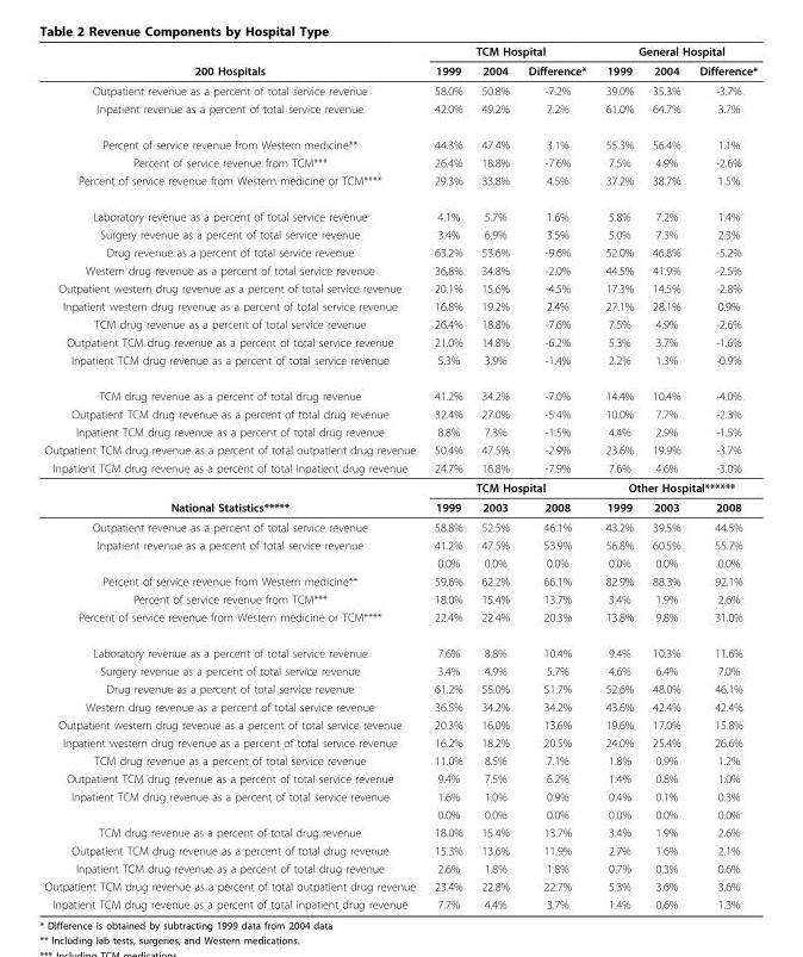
<table><thead><tr><td rowspan="2">200 Hospitals</td><td colspan="3">TCM Hospital</td><td colspan="3">General Hospital</td></tr><tr><td>1999</td><td>2004</td><td>Difference*</td><td>1999</td><td>2004</td><td>Difference*</td></tr></thead><tbody><tr><td>Outpatient revenue as a percent of total service revenue</td><td>58.0%</td><td>50.8%</td><td>-7.2%</td><td>39.0%</td><td>35.3%</td><td>-3.7%</td></tr><tr><td>Inpatient revenue as a percent of total service revenue</td><td>42.0%</td><td>49.2%</td><td>7.2%</td><td>61.0%</td><td>64.7%</td><td>3.7%</td></tr><tr><td>Percent of service revenue from Western medicine**</td><td>44.3%</td><td>47.4%</td><td>3.1%</td><td>55.3%</td><td>56.4%</td><td>1.1%</td></tr><tr><td>Percent of service revenue from TCM***</td><td>26.4%</td><td>18.8%</td><td>-7.6%</td><td>7.5%</td><td>4.9%</td><td>-2.6%</td></tr><tr><td>Percent of service revenue from Western medicine or TCM****</td><td>29.3%</td><td>33.8%</td><td>4.5%</td><td>37.2%</td><td>38.7%</td><td>1.5%</td></tr><tr><td>Laboratory revenue as a percent of total service revenue</td><td>4.1%</td><td>5.7%</td><td>1.6%</td><td>5.8%</td><td>7.2%</td><td>1.4%</td></tr><tr><td>Surgery revenue as a percent of total service revenue</td><td>3.4%</td><td>6.9%</td><td>3.5%</td><td>5.0%</td><td>7.3%</td><td>2.3%</td></tr><tr><td>Drug revenue as a percent of total service revenue</td><td>63.2%</td><td>53.6%</td><td>-9.6%</td><td>52.0%</td><td>46.8%</td><td>-5.2%</td></tr><tr><td>Western drug revenue as a percent of total service revenue</td><td>36.8%</td><td>34.8%</td><td>-2.0%</td><td>44.5%</td><td>41.9%</td><td>-2.5%</td></tr><tr><td>Outpatient western drug revenue as a percent of total service revenue</td><td>20.1%</td><td>15.6%</td><td>-4.5%</td><td>17.3%</td><td>14.5%</td><td>-2.8%</td></tr><tr><td>Inpatient western drug revenue as a percent of total service revenue</td><td>16.8%</td><td>19.2%</td><td>2.4%</td><td>27.1%</td><td>28.1%</td><td>0.9%</td></tr><tr><td>TCM drug revenue as a percent of total service revenue</td><td>26.4%</td><td>18.8%</td><td>-7.6%</td><td>7.5%</td><td>4.9%</td><td>-2.6%</td></tr><tr><td>Outpatient TCM drug revenue as a percent of total service revenue</td><td>21.0%</td><td>14.8%</td><td>-6.2%</td><td>5.3%</td><td>3.7%</td><td>-1.6%</td></tr><tr><td>Inpatient TCM drug revenue as a percent of total service revenue</td><td>5.3%</td><td>3.9%</td><td>-1.4%</td><td>2.2%</td><td>1.3%</td><td>-0.9%</td></tr><tr><td>TCM drug revenue as a percent of total drug revenue</td><td>41.2%</td><td>34.2%</td><td>-7.0%</td><td>14.4%</td><td>10.4%</td><td>-4.0%</td></tr><tr><td>Outpatient TCM drug revenue as a percent of total drug revenue</td><td>32.4%</td><td>27.0%</td><td>-5.4%</td><td>10.0%</td><td>7.7%</td><td>-2.3%</td></tr><tr><td>Inpatient TCM drug revenue as a percent of total drug revenue</td><td>8.8%</td><td>7.3%</td><td>-1.5%</td><td>4.4%</td><td>2.9%</td><td>-1.5%</td></tr><tr><td>Outpatient TCM drug revenue as a percent of total outpatient drug revenue</td><td>50.4%</td><td>47.5%</td><td>-2.9%</td><td>23.6%</td><td>19.9%</td><td>-3.7%</td></tr><tr><td rowspan="2">Inpatient TCM drug revenue as a percent of total inpatient drug revenue</td><td>24.7%</td><td>16.8%</td><td>-7.9%</td><td>7.6%</td><td>4.6%</td><td>-3.0%</td></tr><tr><td colspan="3">TCM Hospital</td><td colspan="3">Other Hospital******</td></tr><tr><td>National Statistics*****</td><td>1999</td><td>2003</td><td>2008</td><td>1999</td><td>2003</td><td>2008</td></tr><tr><td>Outpatient revenue as a percent of total service revenue</td><td>58.8%</td><td>52.5%</td><td>46.1%</td><td>43.2%</td><td>39.5%</td><td>44.5%</td></tr><tr><td rowspan="2">Inpatient revenue as a percent of total service revenue</td><td>41.2%</td><td>47.5%</td><td>53.9%</td><td>56.8%</td><td>60.5%</td><td>55.7%</td></tr><tr><td>0.0%</td><td>0.0%</td><td>0.0%</td><td>0.0%</td><td>0.0%</td><td>0.0%</td></tr><tr><td>Percent of service revenue from Western medicine**</td><td>59.6%</td><td>62.2%</td><td>66.1%</td><td>82.9%</td><td>88.3%</td><td>92.1%</td></tr><tr><td>Percent of service revenue from TCM***</td><td>18.0%</td><td>15.4%</td><td>13.7%</td><td>3.4%</td><td>1.9%</td><td>2.6%</td></tr><tr><td>Percent of service revenue from Western medicine or TCM****</td><td>22.4%</td><td>22.4%</td><td>20.3%</td><td>13.8%</td><td>9.8%</td><td>31.0%</td></tr><tr><td>Laboratory revenue as a percent of total service revenue</td><td>7.6%</td><td>8.8%</td><td>10.4%</td><td>9.4%</td><td>10.3%</td><td>11.6%</td></tr><tr><td>Surgery revenue as a percent of total service revenue</td><td>3.4%</td><td>4.9%</td><td>5.7%</td><td>4.6%</td><td>6.4%</td><td>7.0%</td></tr><tr><td>Drug revenue as a percent of total service revenue</td><td>61.2%</td><td>55.0%</td><td>51.7%</td><td>52.6%</td><td>48.0%</td><td>46.1%</td></tr><tr><td>Western drug revenue as a percent of total service revenue</td><td>36.5%</td><td>34.2%</td><td>34.2%</td><td>43.6%</td><td>42.4%</td><td>42.4%</td></tr><tr><td>Outpatient western drug revenue as a percent of total service revenue</td><td>20.3%</td><td>16.0%</td><td>13.6%</td><td>19.6%</td><td>17.0%</td><td>15.8%</td></tr><tr><td>Inpatient western drug revenue as a percent of total service revenue</td><td>16.2%</td><td>18.2%</td><td>20.5%</td><td>24.0%</td><td>25.4%</td><td>26.6%</td></tr><tr><td>TCM drug revenue as a percent of total service revenue</td><td>11.0%</td><td>8.5%</td><td>7.1%</td><td>1.8%</td><td>0.9%</td><td>1.2%</td></tr><tr><td>Outpatient TCM drug revenue as a percent of total service revenue</td><td>9.4%</td><td>7.5%</td><td>6.2%</td><td>1.4%</td><td>0.8%</td><td>1.0%</td></tr><tr><td rowspan="2">Inpatient TCM drug revenue as a percent of total service revenue</td><td>1.6%</td><td>1.0%</td><td>0.9%</td><td>0.4%</td><td>0.1%</td><td>0.3%</td></tr><tr><td>0.0%</td><td>0.0%</td><td>0.0%</td><td>0.0%</td><td>0.0%</td><td>0.0%</td></tr><tr><td>TCM drug revenue as a percent of total drug revenue</td><td>18.0%</td><td>15.4%</td><td>13.7%</td><td>3.4%</td><td>1.9%</td><td>2.6%</td></tr><tr><td>Outpatient TCM drug revenue as a percent of total drug revenue</td><td>15.3%</td><td>13.6%</td><td>11.9%</td><td>2.7%</td><td>1.6%</td><td>2.1%</td></tr><tr><td>Inpatient TCM drug revenue as a percent of total drug revenue</td><td>2.6%</td><td>1.8%</td><td>1.8%</td><td>0.7%</td><td>0.3%</td><td>0.6%</td></tr><tr><td>Outpatient TCM drug revenue as a percent of total outpatient drug revenue</td><td>23.4%</td><td>22.8%</td><td>22.7%</td><td>5.3%</td><td>3.6%</td><td>3.6%</td></tr><tr><td>Inpatient TCM drug revenue as a percent of total inpatient drug revenue</td><td>7.7%</td><td>4.4%</td><td>3.7%</td><td>1.4%</td><td>0.6%</td><td>1.3%</td></tr></tbody></table>